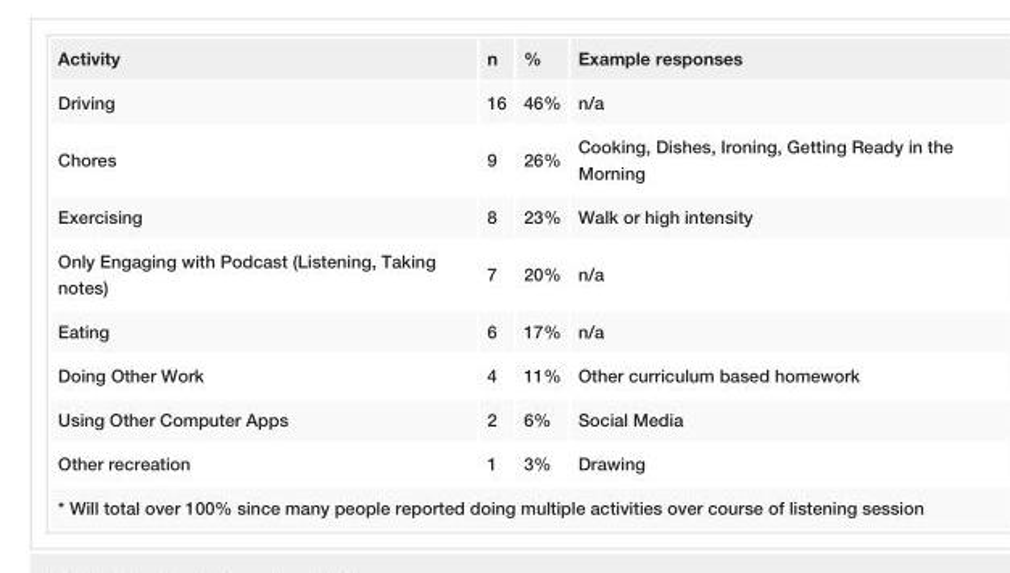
<table><tbody><tr><td>Activity</td><td>n</td><td>%</td><td>Example responses</td></tr><tr><td>Driving</td><td>16</td><td>46%</td><td>n/a</td></tr><tr><td>Chores</td><td>9</td><td>26%</td><td>Cooking, Dishes, Ironing, Getting Ready in the Morning</td></tr><tr><td>Exercising</td><td>8</td><td>23%</td><td>Walk or high intensity</td></tr><tr><td>Only Engaging with Podcast (Listening, Taking notes)</td><td>7</td><td>20%</td><td>n/a</td></tr><tr><td>Eating</td><td>6</td><td>17%</td><td>n/a</td></tr><tr><td>Doing Other Work</td><td>4</td><td>11%</td><td>Other curriculum based homework</td></tr><tr><td>Using Other Computer Apps</td><td>2</td><td>6%</td><td>Social Media</td></tr><tr><td>Other recreation</td><td>1</td><td>3%</td><td>Drawing</td></tr><tr><td colspan="4">* Will total over 100% since many people reported doing multiple activities over course of listening session</td></tr></tbody></table>